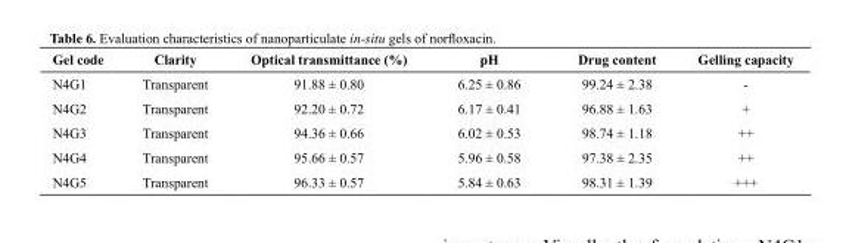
<table><thead><tr><td>Gel code</td><td>Clarity</td><td>Optical transmittance (%)</td><td>pH</td><td>Drug content</td><td>Gelling capacity</td></tr></thead><tbody><tr><td>N4G1</td><td>Transparent</td><td>91.88 ± 0.80</td><td>6.25 ± 0.86</td><td>99.24 ± 2.38</td><td>-</td></tr><tr><td>N4G2</td><td>Transparent</td><td>92.20 ± 0.72</td><td>6.17 ± 0.41</td><td>96.88 ± 1.63</td><td>+</td></tr><tr><td>N4G3</td><td>Transparent</td><td>94.36 ± 0.66</td><td>6.02 ± 0.53</td><td>98.74 ± 1.18</td><td>++</td></tr><tr><td>N4G4</td><td>Transparent</td><td>95.66 ± 0.57</td><td>5.96 ± 0.58</td><td>97.38 ± 2.35</td><td>++</td></tr><tr><td>N4G5</td><td>Transparent</td><td>96.33 ± 0.57</td><td>5.84 ± 0.63</td><td>98.31 ± 1.39</td><td>+++</td></tr></tbody></table>